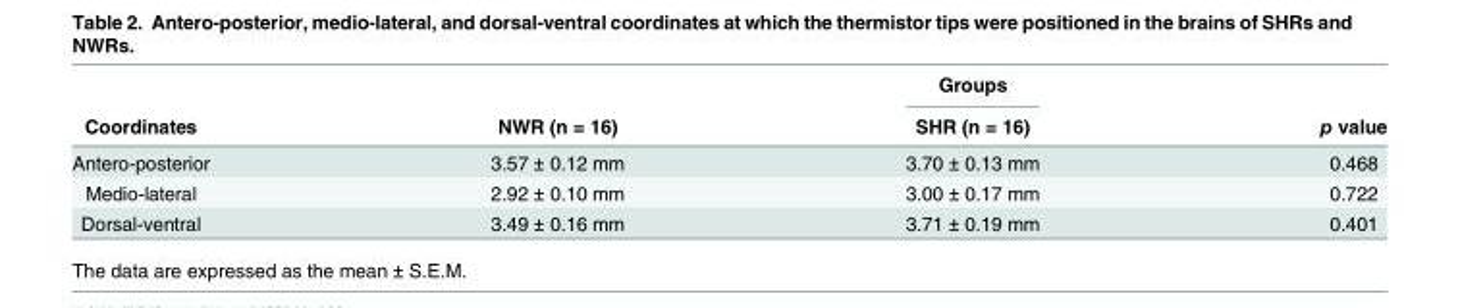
<table><thead><tr><td rowspan="2">Coordinates</td><td rowspan="2">NWR (n = 16)</td><td rowspan="2">Groups SHR (n = 16)</td><td rowspan="2">p value</td></tr><tr></tr></thead><tbody><tr><td>Antero-posterior</td><td>3.57 ± 0.12 mm</td><td>3.70 ± 0.13 mm</td><td>0.468</td></tr><tr><td>Medio-lateral</td><td>2.92 ± 0.10 mm</td><td>3.00 ± 0.17 mm</td><td>0.722</td></tr><tr><td>Dorsal-ventral</td><td>3.49 ± 0.16 mm</td><td>3.71 ± 0.19 mm</td><td>0.401</td></tr></tbody></table>